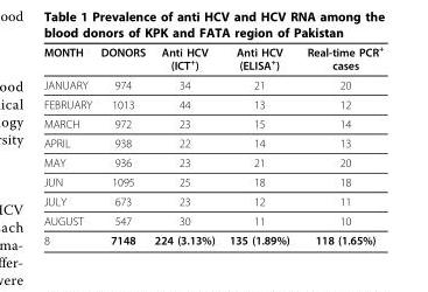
<table><thead><tr><td>MONTH</td><td>DONORS</td><td>Anti HCV (ICT<sup>+</sup>)</td><td>Anti HCV (ELISA<sup>+</sup>)</td><td>Real-time PCR<sup>+</sup> cases</td></tr></thead><tbody><tr><td>JANUARY</td><td>974</td><td>34</td><td>21</td><td>20</td></tr><tr><td>FEBRUARY</td><td>1013</td><td>44</td><td>13</td><td>12</td></tr><tr><td>MARCH</td><td>972</td><td>23</td><td>15</td><td>14</td></tr><tr><td>APRIL</td><td>938</td><td>22</td><td>14</td><td>13</td></tr><tr><td>MAY</td><td>936</td><td>23</td><td>21</td><td>20</td></tr><tr><td>JUN</td><td>1095</td><td>25</td><td>18</td><td>18</td></tr><tr><td>JULY</td><td>673</td><td>23</td><td>12</td><td>11</td></tr><tr><td>AUGUST</td><td>547</td><td>30</td><td>11</td><td>10</td></tr><tr><td>8</td><td>7148</td><td>224 (3.13%)</td><td>135 (1.89%)</td><td>118 (1.65%)</td></tr></tbody></table>